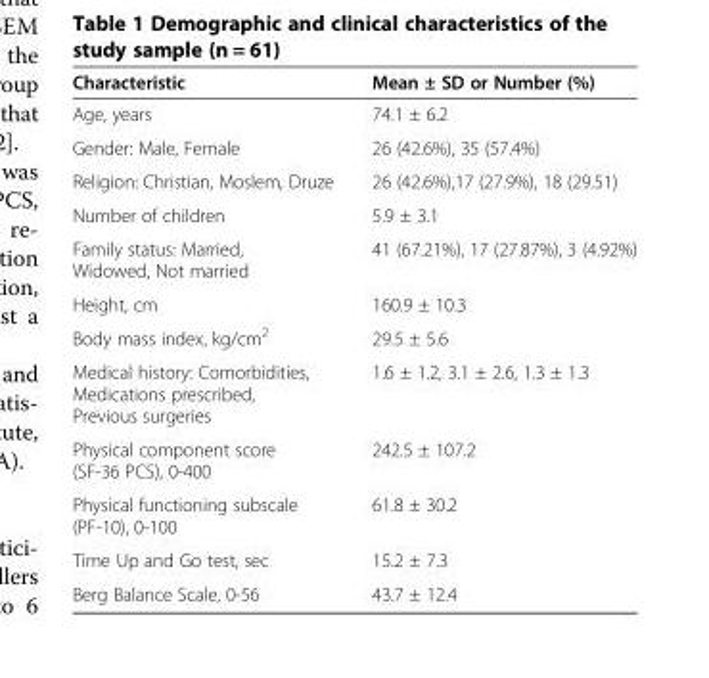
<table><thead><tr><td>Characteristic</td><td>Mean ± SD or Number (%)</td></tr></thead><tbody><tr><td>Age, years</td><td>74.1 ± 6.2</td></tr><tr><td>Gender: Male, Female</td><td>26 (42.6%), 35 (57.4%)</td></tr><tr><td>Religion: Christian, Moslem, Druze</td><td>26 (42.6%),17 (27.9%), 18 (29.51)</td></tr><tr><td>Number of children</td><td>5.9 ± 3.1</td></tr><tr><td>Family status: Married, Widowed, Not married</td><td>41 (67.21%), 17 (27.87%), 3 (4.92%)</td></tr><tr><td>Height, cm</td><td>160.9 ± 10.3</td></tr><tr><td>Body mass index, kg/cm<sup>2</sup></td><td>29.5 ± 5.6</td></tr><tr><td>Medical history: Comorbidities, Medications prescribed, Previous surgeries</td><td>1.6 ± 1.2, 3.1 ± 2.6, 1.3 ± 1.3</td></tr><tr><td>Physical component score (SF-36 PCS), 0-400</td><td>242.5 ± 107.2</td></tr><tr><td>Physical functioning subscale (PF-10), 0-100</td><td>61.8 ± 30.2</td></tr><tr><td>Time Up and Go test, sec</td><td>15.2 ± 7.3</td></tr><tr><td>Berg Balance Scale, 0-56</td><td>43.7 ± 12.4</td></tr></tbody></table>